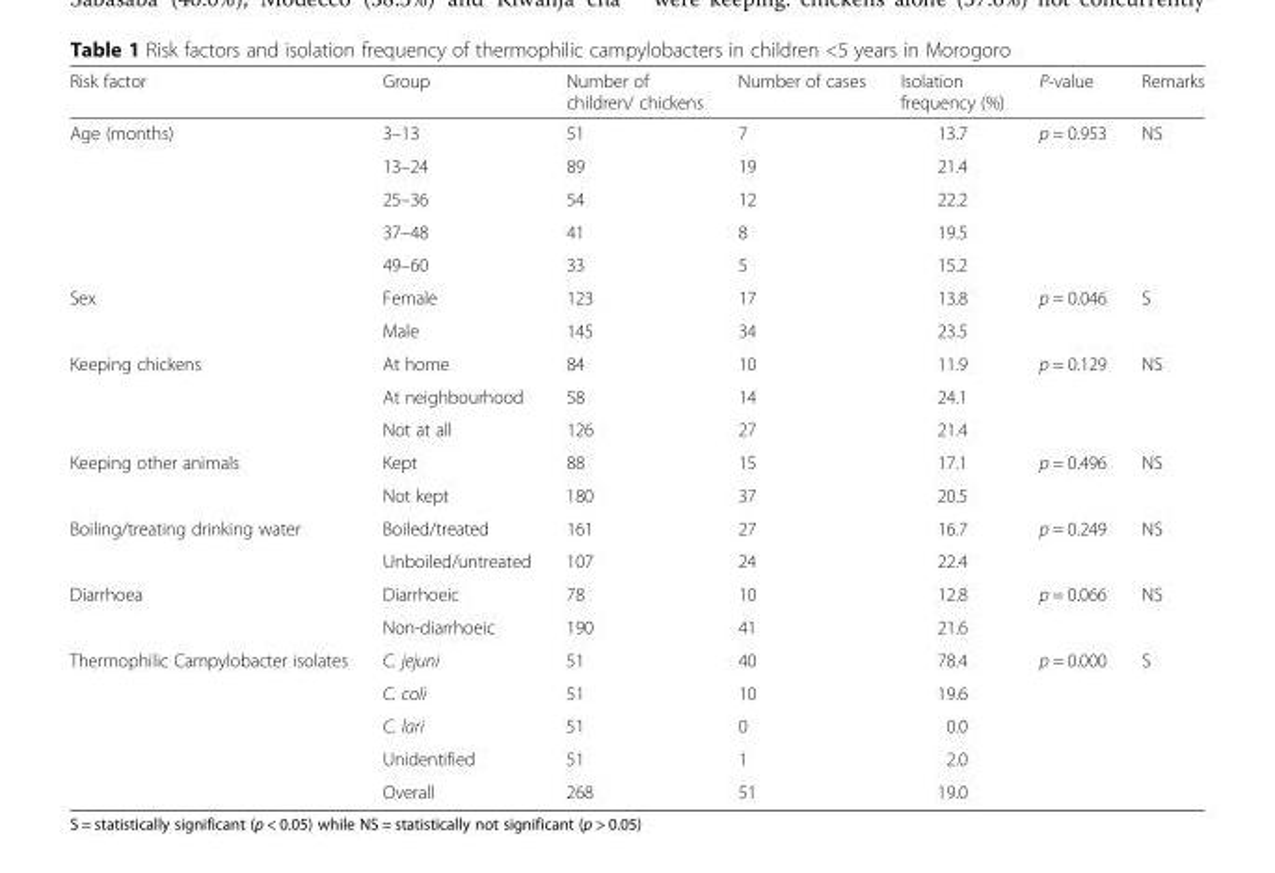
<table><thead><tr><td>Risk factor</td><td>Group</td><td>Number of children/ chickens</td><td>Number of cases</td><td>Isolation frequency (%)</td><td>P-value</td><td>Remarks</td></tr></thead><tbody><tr><td rowspan="5">Age (months)</td><td>3–13</td><td>51</td><td>7</td><td>13.7</td><td rowspan="5">p = 0.953</td><td rowspan="5">NS</td></tr><tr><td>13–24</td><td>89</td><td>19</td><td>21.4</td></tr><tr><td>25–36</td><td>54</td><td>12</td><td>22.2</td></tr><tr><td>37–48</td><td>41</td><td>8</td><td>19.5</td></tr><tr><td>49–60</td><td>33</td><td>5</td><td>15.2</td></tr><tr><td rowspan="2">Sex</td><td>Female</td><td>123</td><td>17</td><td>13.8</td><td rowspan="2">p = 0.046</td><td rowspan="2">S</td></tr><tr><td>Male</td><td>145</td><td>34</td><td>23.5</td></tr><tr><td rowspan="3">Keeping chickens</td><td>At home</td><td>84</td><td>10</td><td>11.9</td><td rowspan="3">p = 0.129</td><td rowspan="3">NS</td></tr><tr><td>At neighbourhood</td><td>58</td><td>14</td><td>24.1</td></tr><tr><td>Not at all</td><td>126</td><td>27</td><td>21.4</td></tr><tr><td rowspan="2">Keeping other animals</td><td>Kept</td><td>88</td><td>15</td><td>17.1</td><td rowspan="2">p = 0.496</td><td rowspan="2">NS</td></tr><tr><td>Not kept</td><td>180</td><td>37</td><td>20.5</td></tr><tr><td rowspan="2">Boiling/treating drinking water</td><td>Boiled/treated</td><td>161</td><td>27</td><td>16.7</td><td rowspan="2">p = 0.249</td><td rowspan="2">NS</td></tr><tr><td>Unboiled/untreated</td><td>107</td><td>24</td><td>22.4</td></tr><tr><td rowspan="2">Diarrhoea</td><td>Diarrhoeic</td><td>78</td><td>10</td><td>12.8</td><td rowspan="2">p = 0.066</td><td rowspan="2">NS</td></tr><tr><td>Non-diarrhoeic</td><td>190</td><td>41</td><td>21.6</td></tr><tr><td rowspan="5">Thermophilic Campylobacter isolates</td><td>C. jejuni</td><td>51</td><td>40</td><td>78.4</td><td rowspan="4">p = 0.000</td><td rowspan="4">S</td></tr><tr><td>C. coli</td><td>51</td><td>10</td><td>19.6</td></tr><tr><td>C. lari</td><td>51</td><td>0</td><td>0.0</td></tr><tr><td>Unidentified</td><td>51</td><td>1</td><td>2.0</td></tr><tr><td>Overall</td><td>268</td><td>51</td><td>19.0</td><td></td><td></td></tr></tbody></table>